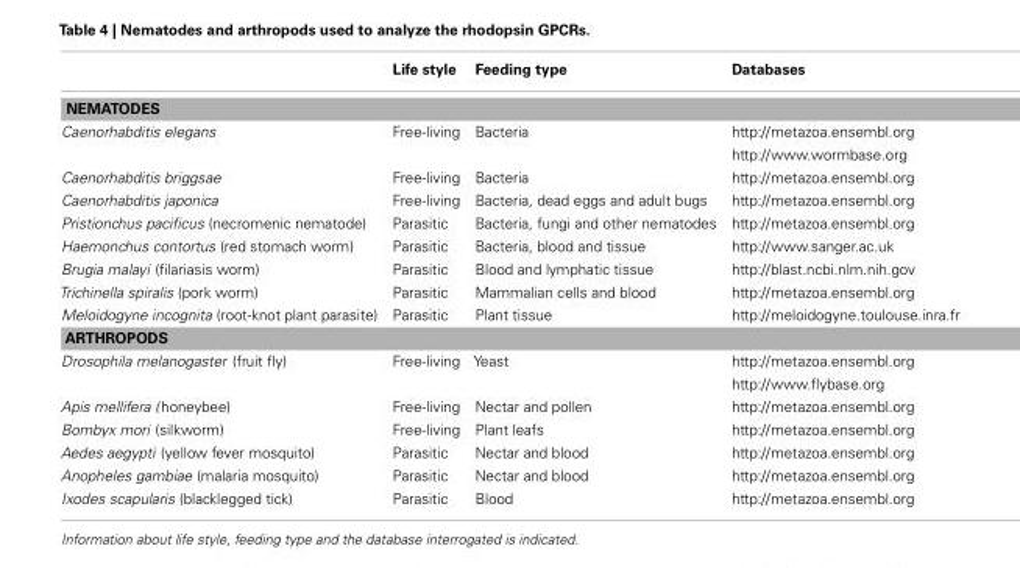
<table><thead><tr><td></td><td>Life style</td><td>Feeding type</td><td>Databases</td></tr></thead><tbody><tr><td colspan="4">NEMATODES</td></tr><tr><td rowspan="2">Caenorhabditis elegans</td><td>Free-living</td><td>Bacteria</td><td>http://metazoa.ensembl.org</td></tr><tr><td></td><td></td><td>http://www.wormbase.org</td></tr><tr><td>Caenorhabditis briggsae</td><td>Free-living</td><td>Bacteria</td><td>http://metazoa.ensembl.org</td></tr><tr><td>Caenorhabditis japonica</td><td>Free-living</td><td>Bacteria, dead eggs and adult bugs</td><td>http://metazoa.ensembl.org</td></tr><tr><td>Pristionchus pacificus (necromenic nematode)</td><td>Parasitic</td><td>Bacteria, fungi and other nematodes</td><td>http://metazoa.ensembl.org</td></tr><tr><td>Haemonchus contortus (red stomach worm)</td><td>Parasitic</td><td>Bacteria, blood and tissue</td><td>http://www.sanger.ac.uk</td></tr><tr><td>Brugia malayi (filariasis worm)</td><td>Parasitic</td><td>Blood and lymphatic tissue</td><td>http://blast.ncbi.nlm.nih.gov</td></tr><tr><td>Trichinella spiralis (pork worm)</td><td>Parasitic</td><td>Mammalian cells and blood</td><td>http://metazoa.ensembl.org</td></tr><tr><td>Meloidogyne incognita (root-knot plant parasite)</td><td>Parasitic</td><td>Plant tissue</td><td>http://meloidogyne.toulouse.inra.fr</td></tr><tr><td colspan="4">ARTHROPODS</td></tr><tr><td rowspan="2">Drosophila melanogaster (fruit fly)</td><td>Free-living</td><td>Yeast</td><td>http://metazoa.ensembl.org</td></tr><tr><td></td><td></td><td>http://www.flybase.org</td></tr><tr><td>Apis mellifera (honeybee)</td><td>Free-living</td><td>Nectar and pollen</td><td>http://metazoa.ensembl.org</td></tr><tr><td>Bombyx mori (silkworm)</td><td>Free-living</td><td>Plant leafs</td><td>http://metazoa.ensembl.org</td></tr><tr><td>Aedes aegypti (yellow fever mosquito)</td><td>Parasitic</td><td>Nectar and blood</td><td>http://metazoa.ensembl.org</td></tr><tr><td>Anopheles gambiae (malaria mosquito)</td><td>Parasitic</td><td>Nectar and blood</td><td>http://metazoa.ensembl.org</td></tr><tr><td>Ixodes scapularis (blacklegged tick)</td><td>Parasitic</td><td>Blood</td><td>http://metazoa.ensembl.org</td></tr></tbody></table>